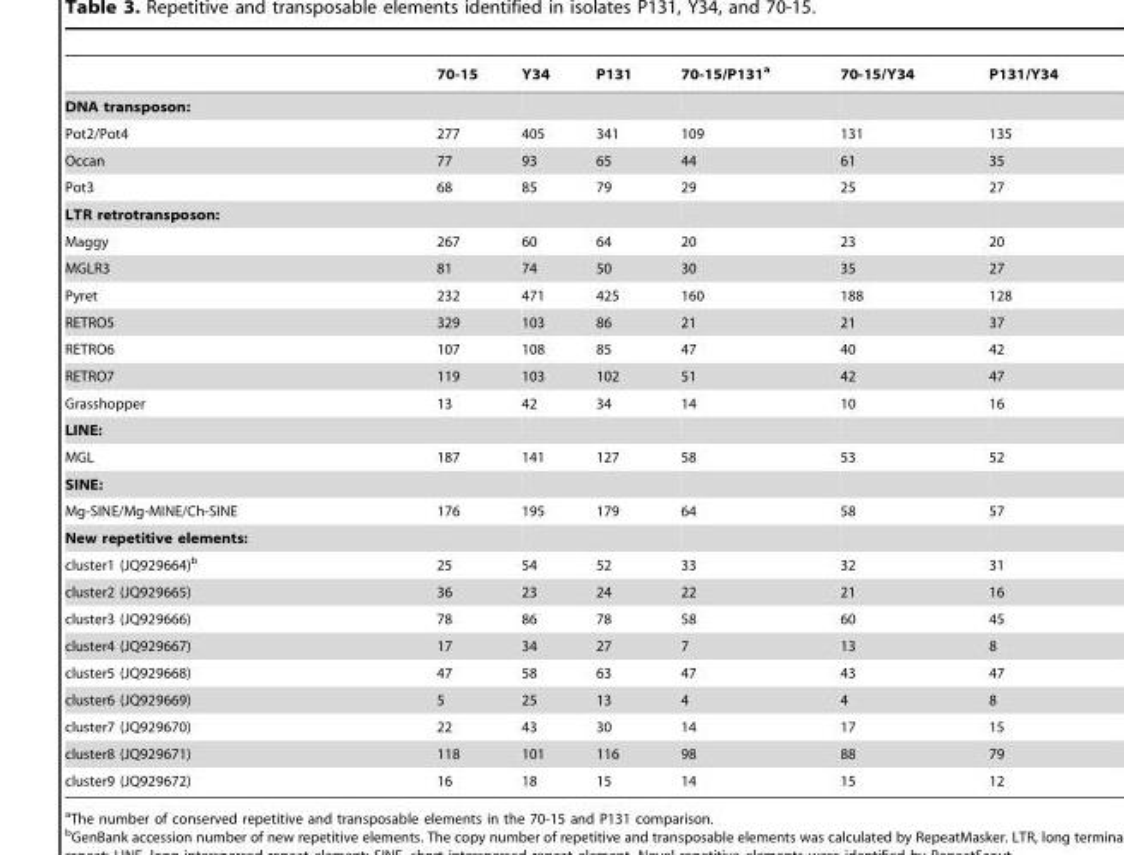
<table><thead><tr><td></td><td>70-15</td><td>Y34</td><td>P131</td><td>70-15/P131<sup>a</sup></td><td>70-15/Y34</td><td>P131/Y34</td></tr></thead><tbody><tr><td colspan="7">DNA transposon:</td></tr><tr><td>Pot2/Pot4</td><td>277</td><td>405</td><td>341</td><td>109</td><td>131</td><td>135</td></tr><tr><td>Occan</td><td>77</td><td>93</td><td>65</td><td>44</td><td>61</td><td>35</td></tr><tr><td>Pot3</td><td>68</td><td>85</td><td>79</td><td>29</td><td>25</td><td>27</td></tr><tr><td colspan="7">LTR retrotransposon:</td></tr><tr><td>Maggy</td><td>267</td><td>60</td><td>64</td><td>20</td><td>23</td><td>20</td></tr><tr><td>MGLR3</td><td>81</td><td>74</td><td>50</td><td>30</td><td>35</td><td>27</td></tr><tr><td>Pyret</td><td>232</td><td>471</td><td>425</td><td>160</td><td>188</td><td>128</td></tr><tr><td>RETRO5</td><td>329</td><td>103</td><td>86</td><td>21</td><td>21</td><td>37</td></tr><tr><td>RETRO6</td><td>107</td><td>108</td><td>85</td><td>47</td><td>40</td><td>42</td></tr><tr><td>RETRO7</td><td>119</td><td>103</td><td>102</td><td>51</td><td>42</td><td>47</td></tr><tr><td>Grasshopper</td><td>13</td><td>42</td><td>34</td><td>14</td><td>10</td><td>16</td></tr><tr><td colspan="7">LINE:</td></tr><tr><td>MGL</td><td>187</td><td>141</td><td>127</td><td>58</td><td>53</td><td>52</td></tr><tr><td colspan="7">SINE:</td></tr><tr><td>Mg-SINE/Mg-MINE/Ch-SINE</td><td>176</td><td>195</td><td>179</td><td>64</td><td>58</td><td>57</td></tr><tr><td colspan="7">New repetitive elements:</td></tr><tr><td>cluster1 (JQ929664)<sup>b</sup></td><td>25</td><td>54</td><td>52</td><td>33</td><td>32</td><td>31</td></tr><tr><td>cluster2 (JQ929665)</td><td>36</td><td>23</td><td>24</td><td>22</td><td>21</td><td>16</td></tr><tr><td>cluster3 (JQ929666)</td><td>78</td><td>86</td><td>78</td><td>58</td><td>60</td><td>45</td></tr><tr><td>cluster4 (JQ929667)</td><td>17</td><td>34</td><td>27</td><td>7</td><td>13</td><td>8</td></tr><tr><td>cluster5 (JQ929668)</td><td>47</td><td>58</td><td>63</td><td>47</td><td>43</td><td>47</td></tr><tr><td>cluster6 (JQ929669)</td><td>5</td><td>25</td><td>13</td><td>4</td><td>4</td><td>8</td></tr><tr><td>cluster7 (JQ929670)</td><td>22</td><td>43</td><td>30</td><td>14</td><td>17</td><td>15</td></tr><tr><td>cluster8 (JQ929671)</td><td>118</td><td>101</td><td>116</td><td>98</td><td>88</td><td>79</td></tr><tr><td>cluster9 (JQ929672)</td><td>16</td><td>18</td><td>15</td><td>14</td><td>15</td><td>12</td></tr></tbody></table>